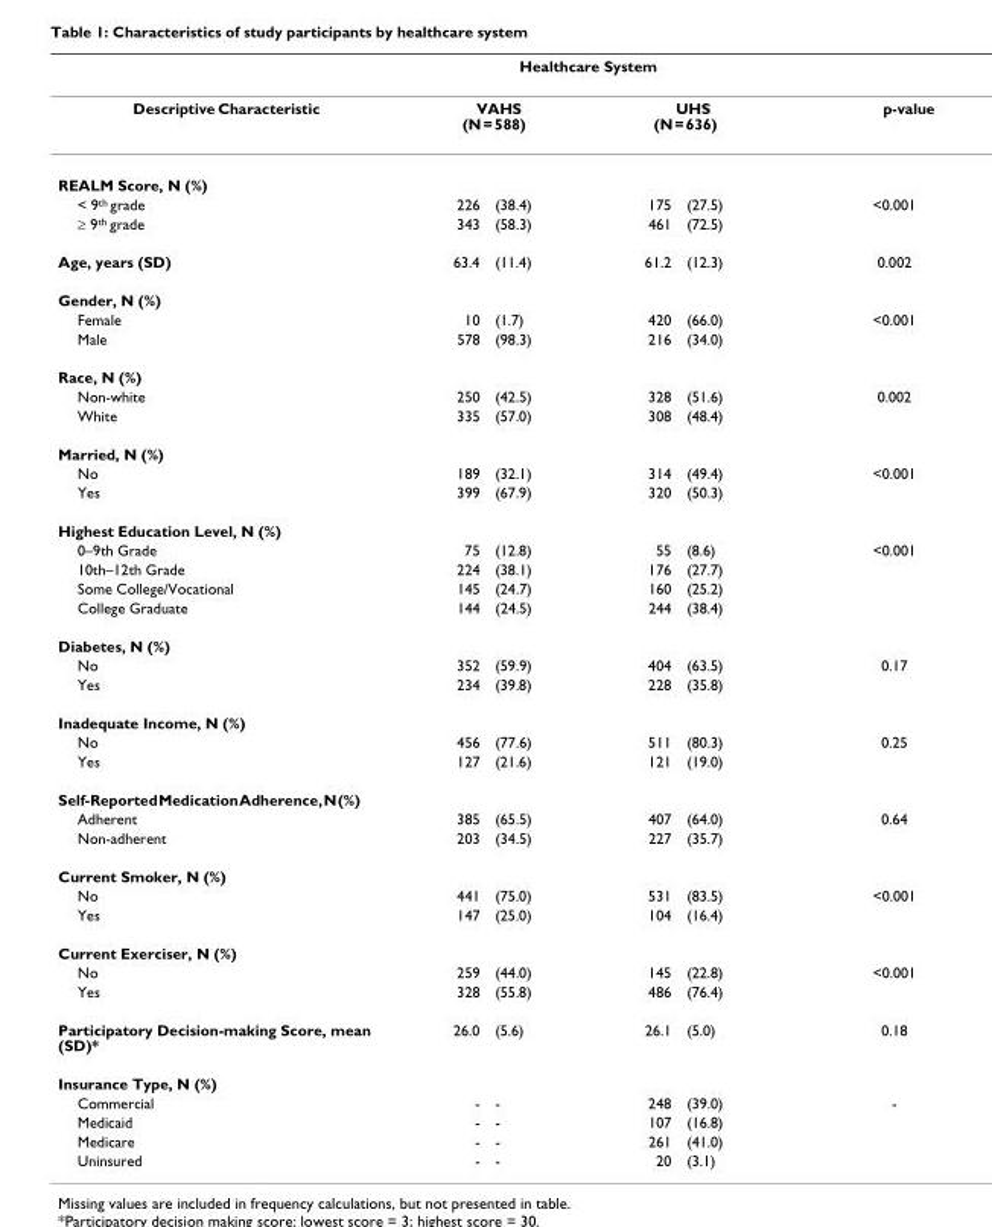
<table><thead><tr><td rowspan="3">Descriptive Characteristic REALM Score, N (%)</td><td colspan="4">Healthcare System</td><td rowspan="3">p-value</td></tr><tr><td colspan="2">VAHS (N = 588)</td><td colspan="2">UHS (N = 636)</td></tr><tr><td></td><td></td><td></td><td></td></tr></thead><tbody><tr><td>&lt; 9<sup>th</sup> grade</td><td>226</td><td>(38.4)</td><td>175</td><td>(27.5)</td><td>&lt;0.001</td></tr><tr><td>≥ 9<sup>th</sup> grade</td><td>343</td><td>(58.3)</td><td>461</td><td>(72.5)</td><td></td></tr><tr><td>Age, years (SD)</td><td>63.4</td><td>(11.4)</td><td>61.2</td><td>(12.3)</td><td>0.002</td></tr><tr><td colspan="6">Gender, N (%)</td></tr><tr><td>Female</td><td>10</td><td>(1.7)</td><td>420</td><td>(66.0)</td><td>&lt;0.001</td></tr><tr><td>Male</td><td>578</td><td>(98.3)</td><td>216</td><td>(34.0)</td><td></td></tr><tr><td colspan="6">Race, N (%)</td></tr><tr><td>Non-white</td><td>250</td><td>(42.5)</td><td>328</td><td>(51.6)</td><td>0.002</td></tr><tr><td>White</td><td>335</td><td>(57.0)</td><td>308</td><td>(48.4)</td><td></td></tr><tr><td colspan="6">Married, N (%)</td></tr><tr><td>No</td><td>189</td><td>(32.1)</td><td>314</td><td>(49.4)</td><td>&lt;0.001</td></tr><tr><td>Yes</td><td>399</td><td>(67.9)</td><td>320</td><td>(50.3)</td><td></td></tr><tr><td colspan="6">Highest Education Level, N (%)</td></tr><tr><td>0–9th Grade</td><td>75</td><td>(12.8)</td><td>55</td><td>(8.6)</td><td>&lt;0.001</td></tr><tr><td>10th–12th Grade</td><td>224</td><td>(38.1)</td><td>176</td><td>(27.7)</td><td></td></tr><tr><td>Some College/Vocational</td><td>145</td><td>(24.7)</td><td>160</td><td>(25.2)</td><td></td></tr><tr><td>College Graduate</td><td>144</td><td>(24.5)</td><td>244</td><td>(38.4)</td><td></td></tr><tr><td colspan="6">Diabetes, N (%)</td></tr><tr><td>No</td><td>352</td><td>(59.9)</td><td>404</td><td>(63.5)</td><td>0.17</td></tr><tr><td>Yes</td><td>234</td><td>(39.8)</td><td>228</td><td>(35.8)</td><td></td></tr><tr><td colspan="6">Inadequate Income, N (%)</td></tr><tr><td>No</td><td>456</td><td>(77.6)</td><td>511</td><td>(80.3)</td><td>0.25</td></tr><tr><td>Yes</td><td>127</td><td>(21.6)</td><td>121</td><td>(19.0)</td><td></td></tr><tr><td colspan="6">Self-Reported Medication Adherence, N (%)</td></tr><tr><td>Adherent</td><td>385</td><td>(65.5)</td><td>407</td><td>(64.0)</td><td>0.64</td></tr><tr><td>Non-adherent</td><td>203</td><td>(34.5)</td><td>227</td><td>(35.7)</td><td></td></tr><tr><td colspan="6">Current Smoker, N (%)</td></tr><tr><td>No</td><td>441</td><td>(75.0)</td><td>531</td><td>(83.5)</td><td>&lt;0.001</td></tr><tr><td>Yes</td><td>147</td><td>(25.0)</td><td>104</td><td>(16.4)</td><td></td></tr><tr><td colspan="6">Current Exerciser, N (%)</td></tr><tr><td>No</td><td>259</td><td>(44.0)</td><td>145</td><td>(22.8)</td><td>&lt;0.001</td></tr><tr><td>Yes</td><td>328</td><td>(55.8)</td><td>486</td><td>(76.4)</td><td></td></tr><tr><td>Participatory Decision-making Score, mean (SD)*</td><td>26.0</td><td>(5.6)</td><td>26.1</td><td>(5.0)</td><td>0.18</td></tr><tr><td colspan="6">Insurance Type, N (%)</td></tr><tr><td>Commercial</td><td>-</td><td>-</td><td>248</td><td>(39.0)</td><td>-</td></tr><tr><td>Medicaid</td><td>-</td><td>-</td><td>107</td><td>(16.8)</td><td></td></tr><tr><td>Medicare</td><td>-</td><td>-</td><td>261</td><td>(41.0)</td><td></td></tr><tr><td>Uninsured</td><td>-</td><td>-</td><td>20</td><td>(3.1)</td><td></td></tr></tbody></table>